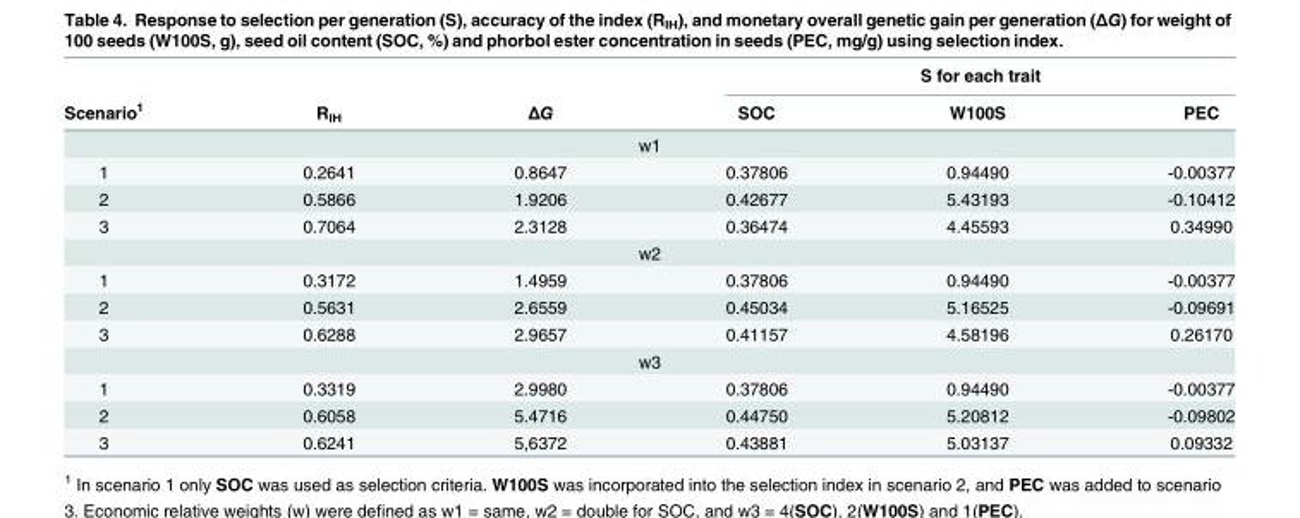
<table><thead><tr><td rowspan="2">Scenario<sup>1</sup></td><td rowspan="2">R<sub>IH</sub></td><td rowspan="2">ΔG</td><td colspan="3">S for each trait</td></tr><tr><td>SOC</td><td>W100S</td><td>PEC</td></tr></thead><tbody><tr><td colspan="6">w1</td></tr><tr><td>1</td><td>0.2641</td><td>0.8647</td><td>0.37806</td><td>0.94490</td><td>-0.00377</td></tr><tr><td>2</td><td>0.5866</td><td>1.9206</td><td>0.42677</td><td>5.43193</td><td>-0.10412</td></tr><tr><td>3</td><td>0.7064</td><td>2.3128</td><td>0.36474</td><td>4.45593</td><td>0.34990</td></tr><tr><td colspan="6">w2</td></tr><tr><td>1</td><td>0.3172</td><td>1.4959</td><td>0.37806</td><td>0.94490</td><td>-0.00377</td></tr><tr><td>2</td><td>0.5631</td><td>2.6559</td><td>0.45034</td><td>5.16525</td><td>-0.09691</td></tr><tr><td>3</td><td>0.6288</td><td>2.9657</td><td>0.41157</td><td>4.58196</td><td>0.26170</td></tr><tr><td colspan="6">w3</td></tr><tr><td>1</td><td>0.3319</td><td>2.9980</td><td>0.37806</td><td>0.94490</td><td>-0.00377</td></tr><tr><td>2</td><td>0.6058</td><td>5.4716</td><td>0.44750</td><td>5.20812</td><td>-0.09802</td></tr><tr><td>3</td><td>0.6241</td><td>5,6372</td><td>0.43881</td><td>5.03137</td><td>0.09332</td></tr></tbody></table>